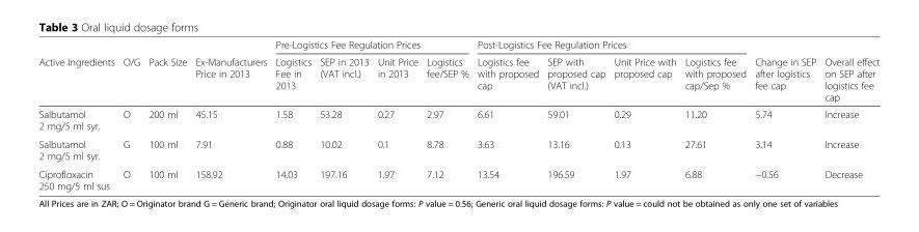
<table><thead><tr><td rowspan="2">Active Ingredients</td><td rowspan="2">O/G</td><td rowspan="2">Pack Size</td><td rowspan="2">Ex-Manufacturers Price in 2013</td><td colspan="4">Pre-Logistics Fee Regulation Prices</td><td colspan="4">Post-Logistics Fee Regulation Prices</td><td rowspan="2">Change in SEP after logistics fee cap</td><td rowspan="2">Overall effect on SEP after logistics fee cap</td></tr><tr><td>Logistics Fee in 2013</td><td>SEP in 2013 (VAT incl.)</td><td>Unit Price in 2013</td><td>Logistics fee/SEP %</td><td>Logistics fee with proposed cap</td><td>SEP with proposed cap (VAT incl.)</td><td>Unit Price with proposed cap</td><td>Logistics fee with proposed cap/Sep %</td></tr></thead><tbody><tr><td>Salbutamol 2 mg/5 ml syr.</td><td>O</td><td>200 ml</td><td>45.15</td><td>1.58</td><td>53.28</td><td>0.27</td><td>2.97</td><td>6.61</td><td>59.01</td><td>0.29</td><td>11.20</td><td>5.74</td><td>Increase</td></tr><tr><td>Salbutamol 2 mg/5 ml syr.</td><td>G</td><td>100 ml</td><td>7.91</td><td>0.88</td><td>10.02</td><td>0.1</td><td>8.78</td><td>3.63</td><td>13.16</td><td>0.13</td><td>27.61</td><td>3.14</td><td>Increase</td></tr><tr><td>Ciprofloxacin 250 mg/5 ml sus</td><td>O</td><td>100 ml</td><td>158.92</td><td>14.03</td><td>197.16</td><td>1.97</td><td>7.12</td><td>13.54</td><td>196.59</td><td>1.97</td><td>6.88</td><td>−0.56</td><td>Decrease</td></tr></tbody></table>